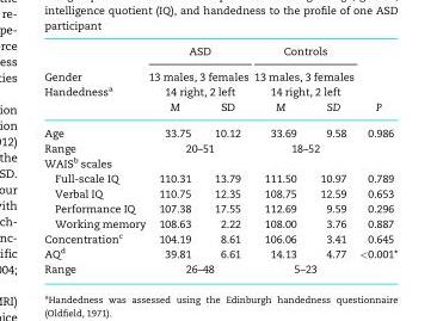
<table><thead><tr><td rowspan="4">Gender Handedness<sup>a</sup></td><td rowspan="3" colspan="2">ASD 13 males, 3 females 14 right, 2 left</td><td rowspan="3" colspan="2">Controls 13 males, 3 females 14 right, 2 left</td><td rowspan="4">P</td></tr><tr></tr><tr></tr><tr><td>M</td><td>SD</td><td>M</td><td>SD</td></tr></thead><tbody><tr><td>Age</td><td>33.75</td><td>10.12</td><td>33.69</td><td>9.58</td><td>0.986</td></tr><tr><td>Range</td><td colspan="2">20–51</td><td colspan="2">18–52</td><td></td></tr><tr><td colspan="6">WAIS<sup>b</sup> scales</td></tr><tr><td>Full-scale IQ</td><td>110.31</td><td>13.79</td><td>111.50</td><td>10.97</td><td>0.789</td></tr><tr><td>Verbal IQ</td><td>110.75</td><td>12.35</td><td>108.75</td><td>12.59</td><td>0.653</td></tr><tr><td>Performance IQ</td><td>107.38</td><td>17.55</td><td>112.69</td><td>9.59</td><td>0.296</td></tr><tr><td>Working memory</td><td>108.63</td><td>2.22</td><td>108.00</td><td>3.76</td><td>0.887</td></tr><tr><td>Concentration<sup>c</sup></td><td>104.19</td><td>8.61</td><td>106.06</td><td>3.41</td><td>0.645</td></tr><tr><td>AQ<sup>d</sup></td><td>39.81</td><td>6.61</td><td>14.13</td><td>4.77</td><td>&lt;0.001*</td></tr><tr><td>Range</td><td colspan="2">26–48</td><td colspan="2">5–23</td><td></td></tr></tbody></table>